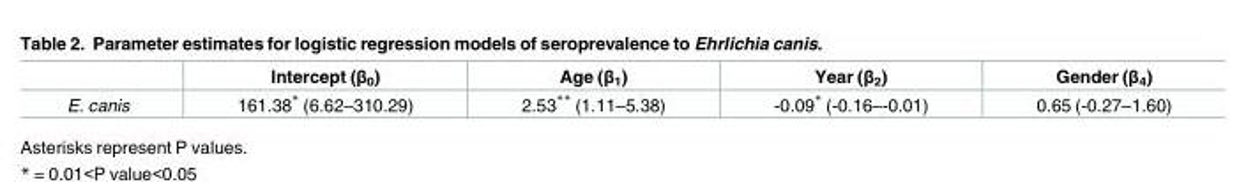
<table><thead><tr><td></td><td>Intercept (β<sub>0</sub>)</td><td>Age (β<sub>1</sub>)</td><td>Year (β<sub>2</sub>)</td><td>Gender (β<sub>4</sub>)</td></tr></thead><tbody><tr><td>E. canis</td><td>161.38* (6.62–310.29)</td><td>2.53** (1.11–5.38)</td><td>-0.09* (-0.16–-0.01)</td><td>0.65 (-0.27–1.60)</td></tr></tbody></table>